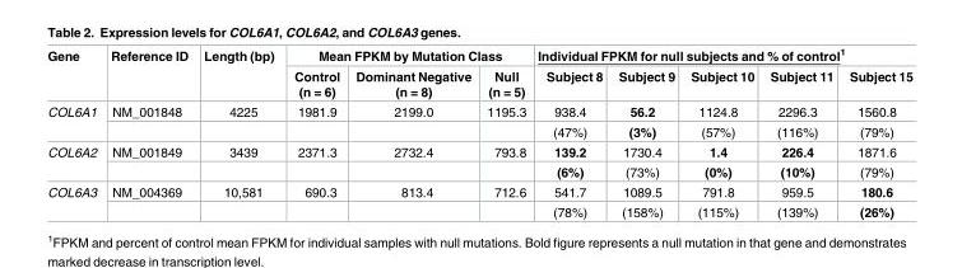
<table><thead><tr><td rowspan="2">Gene</td><td rowspan="2">Reference ID</td><td rowspan="2">Length (bp)</td><td colspan="3">Mean FPKM by Mutation Class</td><td colspan="5">Individual FPKM for null subjects and % of control<sup>1</sup></td></tr><tr><td>Control (n = 6)</td><td>Dominant Negative (n = 8)</td><td>Null (n = 5)</td><td>Subject 8</td><td>Subject 9</td><td>Subject 10</td><td>Subject 11</td><td>Subject 15</td></tr></thead><tbody><tr><td rowspan="2">COL6A1</td><td>NM_001848</td><td>4225</td><td>1981.9</td><td>2199.0</td><td>1195.3</td><td>938.4</td><td>56.2</td><td>1124.8</td><td>2296.3</td><td>1560.8</td></tr><tr><td></td><td></td><td></td><td></td><td></td><td>(47%)</td><td>(3%)</td><td>(57%)</td><td>(116%)</td><td>(79%)</td></tr><tr><td rowspan="2">COL6A2</td><td>NM_001849</td><td>3439</td><td>2371.3</td><td>2732.4</td><td>793.8</td><td>139.2</td><td>1730.4</td><td>1.4</td><td>226.4</td><td>1871.6</td></tr><tr><td></td><td></td><td></td><td></td><td></td><td>(6%)</td><td>(73%)</td><td>(0%)</td><td>(10%)</td><td>(79%)</td></tr><tr><td rowspan="2">COL6A3</td><td>NM_004369</td><td>10,581</td><td>690.3</td><td>813.4</td><td>712.6</td><td>541.7</td><td>1089.5</td><td>791.8</td><td>959.5</td><td>180.6</td></tr><tr><td></td><td></td><td></td><td></td><td></td><td>(78%)</td><td>(158%)</td><td>(115%)</td><td>(139%)</td><td>(26%)</td></tr></tbody></table>